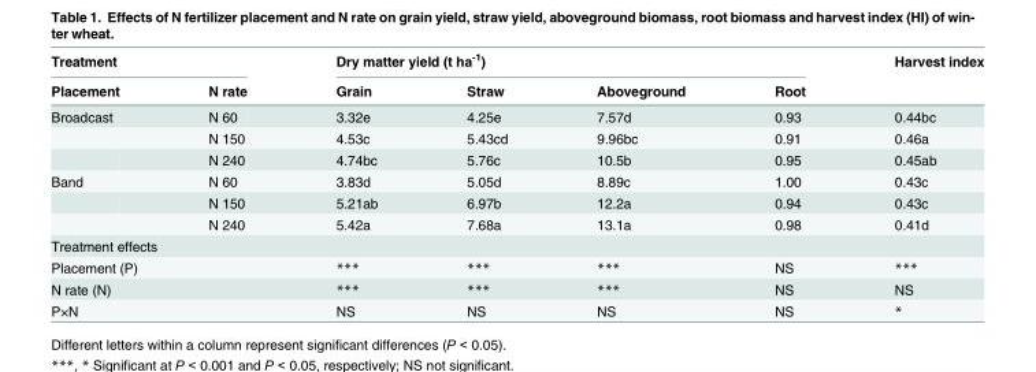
<table><thead><tr><td colspan="2">Treatment</td><td colspan="4">Dry matter yield (t ha<sup>-1</sup>)</td><td rowspan="2">Harvest index</td></tr><tr><td>Placement</td><td>N rate</td><td>Grain</td><td>Straw</td><td>Aboveground</td><td>Root</td></tr></thead><tbody><tr><td rowspan="3">Broadcast</td><td>N 60</td><td>3.32e</td><td>4.25e</td><td>7.57d</td><td>0.93</td><td>0.44bc</td></tr><tr><td>N 150</td><td>4.53c</td><td>5.43cd</td><td>9.96bc</td><td>0.91</td><td>0.46a</td></tr><tr><td>N 240</td><td>4.74bc</td><td>5.76c</td><td>10.5b</td><td>0.95</td><td>0.45ab</td></tr><tr><td rowspan="3">Band</td><td>N 60</td><td>3.83d</td><td>5.05d</td><td>8.89c</td><td>1.00</td><td>0.43c</td></tr><tr><td>N 150</td><td>5.21ab</td><td>6.97b</td><td>12.2a</td><td>0.94</td><td>0.43c</td></tr><tr><td>N 240</td><td>5.42a</td><td>7.68a</td><td>13.1a</td><td>0.98</td><td>0.41d</td></tr><tr><td colspan="7">Treatment effects</td></tr><tr><td colspan="2">Placement (P)</td><td>***</td><td>***</td><td>***</td><td>NS</td><td>***</td></tr><tr><td colspan="2">N rate (N)</td><td>***</td><td>***</td><td>***</td><td>NS</td><td>NS</td></tr><tr><td colspan="2">P×N</td><td>NS</td><td>NS</td><td>NS</td><td>NS</td><td>*</td></tr></tbody></table>